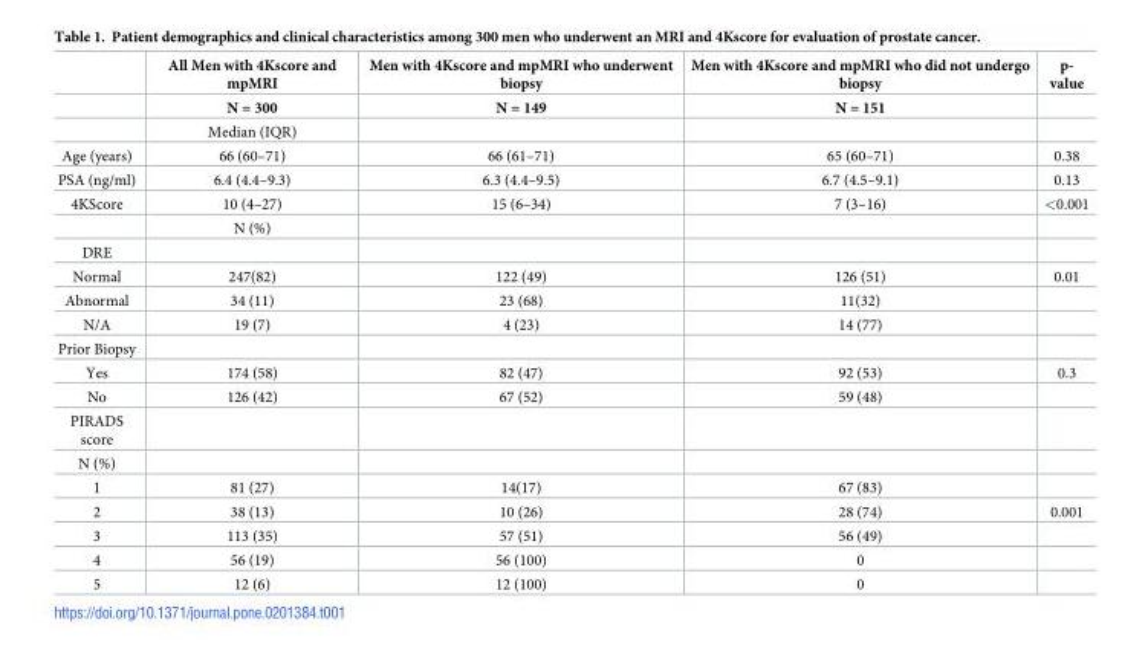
<table><thead><tr><td rowspan="2"></td><td rowspan="2">All Men with 4Kscore and mpMRI N = 300</td><td rowspan="2">Men with 4Kscore and mpMRI who underwent biopsy N = 149</td><td rowspan="2">Men with 4Kscore and mpMRI who did not undergo biopsy N = 151</td><td rowspan="2">p- value</td></tr><tr></tr></thead><tbody><tr><td></td><td>Median (IQR)</td><td></td><td></td><td></td></tr><tr><td>Age (years)</td><td>66 (60–71)</td><td>66 (61–71)</td><td>65 (60–71)</td><td>0.38</td></tr><tr><td>PSA (ng/ml)</td><td>6.4 (4.4–9.3)</td><td>6.3 (4.4–9.5)</td><td>6.7 (4.5–9.1)</td><td>0.13</td></tr><tr><td rowspan="2">4KScore</td><td>10 (4–27)</td><td>15 (6–34)</td><td>7 (3–16)</td><td>&lt;0.001</td></tr><tr><td>N (%)</td><td></td><td></td><td></td></tr><tr><td colspan="5">DRE</td></tr><tr><td>Normal</td><td>247(82)</td><td>122 (49)</td><td>126 (51)</td><td>0.01</td></tr><tr><td>Abnormal</td><td>34 (11)</td><td>23 (68)</td><td>11(32)</td><td></td></tr><tr><td>N/A</td><td>19 (7)</td><td>4 (23)</td><td>14 (77)</td><td></td></tr><tr><td colspan="5">Prior Biopsy</td></tr><tr><td>Yes</td><td>174 (58)</td><td>82 (47)</td><td>92 (53)</td><td>0.3</td></tr><tr><td>No</td><td>126 (42)</td><td>67 (52)</td><td>59 (48)</td><td></td></tr><tr><td colspan="5">PIRADS score</td></tr><tr><td colspan="5">N (%)</td></tr><tr><td>1</td><td>81 (27)</td><td>14(17)</td><td>67 (83)</td><td></td></tr><tr><td>2</td><td>38 (13)</td><td>10 (26)</td><td>28 (74)</td><td>0.001</td></tr><tr><td>3</td><td>113 (35)</td><td>57 (51)</td><td>56 (49)</td><td></td></tr><tr><td>4</td><td>56 (19)</td><td>56 (100)</td><td>0</td><td></td></tr><tr><td>5</td><td>12 (6)</td><td>12 (100)</td><td>0</td><td></td></tr></tbody></table>